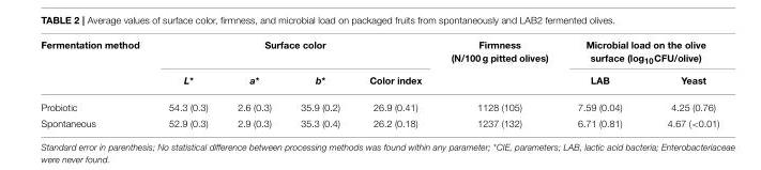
<table><thead><tr><td rowspan="2">Fermentation method</td><td colspan="4">Surface color</td><td rowspan="2">Firmness (N/100 g pitted olives)</td><td colspan="2">Microbial load on the olive surface (log<sub>10</sub>CFU/olive)</td></tr><tr><td>L*</td><td>a*</td><td>b*</td><td>Color index</td><td>LAB</td><td>Yeast</td></tr></thead><tbody><tr><td>Probiotic</td><td>54.3 (0.3)</td><td>2.6 (0.3)</td><td>35.9 (0.2)</td><td>26.9 (0.41)</td><td>1128 (105)</td><td>7.59 (0.04)</td><td>4.25 (0.76)</td></tr><tr><td>Spontaneous</td><td>52.9 (0.3)</td><td>2.9 (0.3)</td><td>35.3 (0.4)</td><td>26.2 (0.18)</td><td>1237 (132)</td><td>6.71 (0.81)</td><td>4.67 (&lt;0.01)</td></tr></tbody></table>